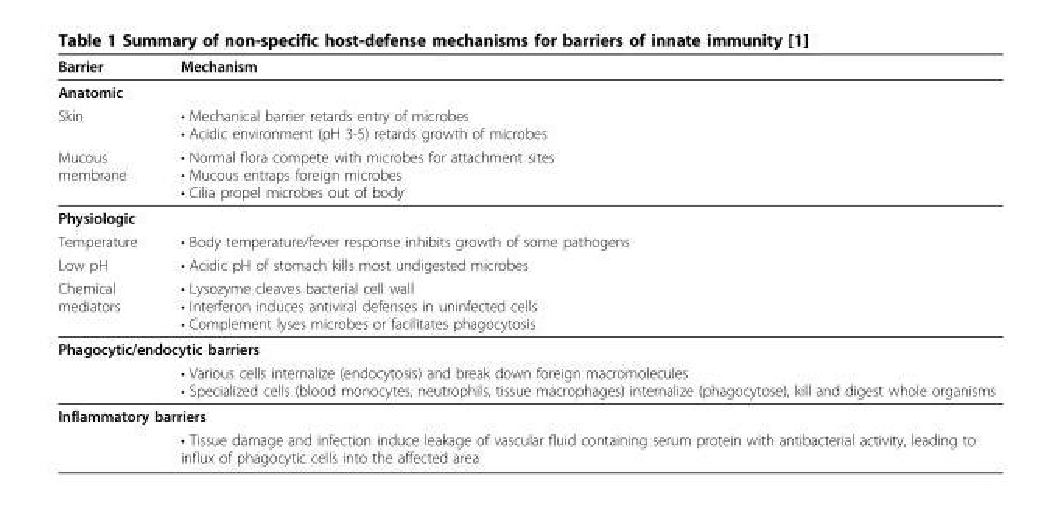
<table><thead><tr><td>Barrier</td><td>Mechanism</td></tr></thead><tbody><tr><td colspan="2">Anatomic</td></tr><tr><td>Skin</td><td>• Mechanical barrier retards entry of microbes • Acidic environment (pH 3-5) retards growth of microbes</td></tr><tr><td>Mucous membrane</td><td>• Normal flora compete with microbes for attachment sites • Mucous entraps foreign microbes • Cilia propel microbes out of body</td></tr><tr><td colspan="2">Physiologic</td></tr><tr><td>Temperature</td><td>• Body temperature/fever response inhibits growth of some pathogens</td></tr><tr><td>Low pH</td><td>• Acidic pH of stomach kills most undigested microbes</td></tr><tr><td>Chemical mediators</td><td>• Lysozyme cleaves bacterial cell wall • Interferon induces antiviral defenses in uninfected cells • Complement lyses microbes or facilitates phagocytosis</td></tr><tr><td colspan="2">Phagocytic/endocytic barriers</td></tr><tr><td></td><td>• Various cells internalize (endocytosis) and break down foreign macromolecules • Specialized cells (blood monocytes, neutrophils, tissue macrophages) internalize (phagocytose), kill and digest whole organisms</td></tr><tr><td colspan="2">Inflammatory barriers</td></tr><tr><td></td><td>• Tissue damage and infection induce leakage of vascular fluid containing serum protein with antibacterial activity, leading to influx of phagocytic cells into the affected area</td></tr></tbody></table>